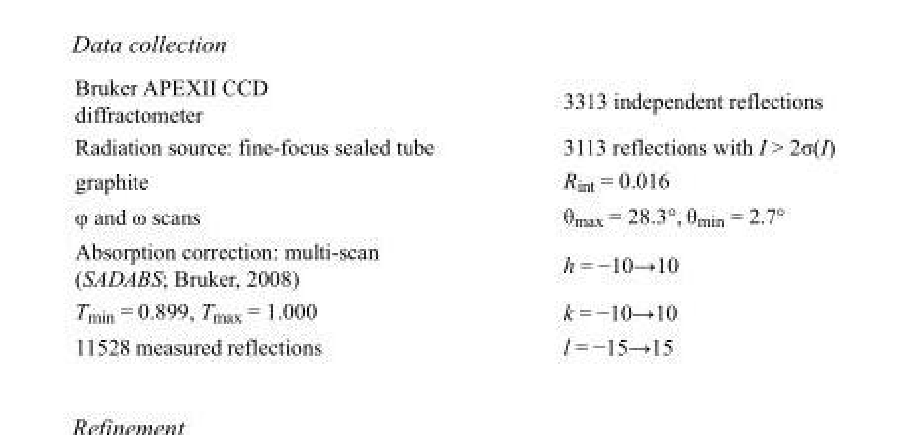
<table><tbody><tr><td>Bruker APEXII CCD diffractometer</td><td>3313 independent reflections</td></tr><tr><td>Radiation source: fine-focus sealed tube</td><td>3113 reflections with I &gt; 2σ(I)</td></tr><tr><td>graphite</td><td>R<sub>int</sub> = 0.016</td></tr><tr><td>φ and ω scans</td><td>θ<sub>max</sub> = 28.3°, θ<sub>min</sub> = 2.7°</td></tr><tr><td>Absorption correction: multi-scan (SADABS; Bruker, 2008)</td><td>h = −10→10</td></tr><tr><td>T<sub>min</sub> = 0.899, T<sub>max</sub> = 1.000</td><td>k = −10→10</td></tr><tr><td>11528 measured reflections</td><td>l = −15→15</td></tr></tbody></table>